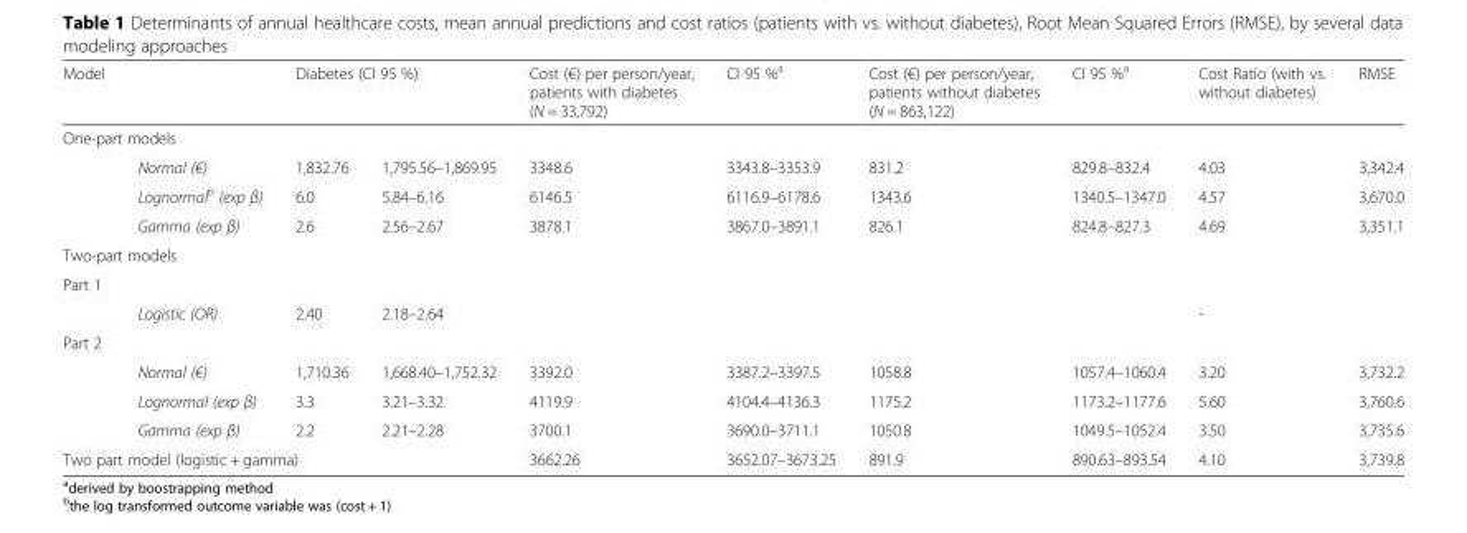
<table><thead><tr><td>Model</td><td></td><td colspan="2">Diabetes (CI 95 %)</td><td>Cost (€) per person/year, patients with diabetes (N = 33,792)</td><td>CI 95 %<sup>a</sup></td><td>Cost (€) per person/year, patients without diabetes (N = 863,122)</td><td>CI 95 %<sup>a</sup></td><td>Cost Ratio (with vs. without diabetes)</td><td>RMSE</td></tr><tr><td colspan="10">One-part models</td></tr><tr><td></td><td>Normal (€)</td><td>1,832.76</td><td>1,795.56–1,869.95</td><td>3348.6</td><td>3343.8–3353.9</td><td>831.2</td><td>829.8–832.4</td><td>4.03</td><td>3,342.4</td></tr></thead><tbody><tr><td></td><td>Lognormal<sup>b</sup> (exp β)</td><td>6.0</td><td>5.84–6.16</td><td>6146.5</td><td>6116.9–6178.6</td><td>1343.6</td><td>1340.5–1347.0</td><td>4.57</td><td>3,670.0</td></tr><tr><td></td><td>Gamma (exp β)</td><td>2.6</td><td>2.56–2.67</td><td>3878.1</td><td>3867.0–3891.1</td><td>826.1</td><td>824.8–827.3</td><td>4.69</td><td>3,351.1</td></tr><tr><td colspan="10">Two-part models</td></tr><tr><td colspan="10">Part 1</td></tr><tr><td></td><td>Logistic (OR)</td><td>2.40</td><td>2.18–2.64</td><td></td><td></td><td></td><td></td><td>-</td><td></td></tr><tr><td colspan="10">Part 2</td></tr><tr><td></td><td>Normal (€)</td><td>1,710.36</td><td>1,668.40–1,752.32</td><td>3392.0</td><td>3387.2–3397.5</td><td>1058.8</td><td>1057.4–1060.4</td><td>3.20</td><td>3,732.2</td></tr><tr><td></td><td>Lognormal (exp β)</td><td>3.3</td><td>3.21–3.32</td><td>4119.9</td><td>4104.4–4136.3</td><td>1175.2</td><td>1173.2–1177.6</td><td>5.60</td><td>3,760.6</td></tr><tr><td></td><td>Gamma (exp β)</td><td>2.2</td><td>2.21–2.28</td><td>3700.1</td><td>3690.0–3711.1</td><td>1050.8</td><td>1049.5–1052.4</td><td>3.50</td><td>3,735.6</td></tr><tr><td colspan="3">Two part model (logistic + gamma)</td><td></td><td>3662.26</td><td>3652.07–3673.25</td><td>891.9</td><td>890.63–893.54</td><td>4.10</td><td>3,739.8</td></tr></tbody></table>